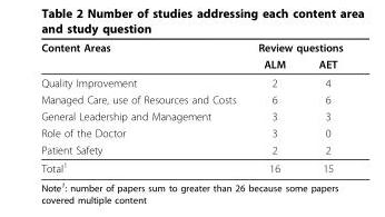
<table><thead><tr><td rowspan="2">Content Areas</td><td colspan="2">Review questions</td></tr><tr><td>ALM</td><td>AET</td></tr></thead><tbody><tr><td>Quality Improvement</td><td>2</td><td>4</td></tr><tr><td>Managed Care, use of Resources and Costs</td><td>6</td><td>6</td></tr><tr><td>General Leadership and Management</td><td>3</td><td>3</td></tr><tr><td>Role of the Doctor</td><td>3</td><td>0</td></tr><tr><td>Patient Safety</td><td>2</td><td>2</td></tr><tr><td>Total<sup>1</sup></td><td>16</td><td>15</td></tr></tbody></table>